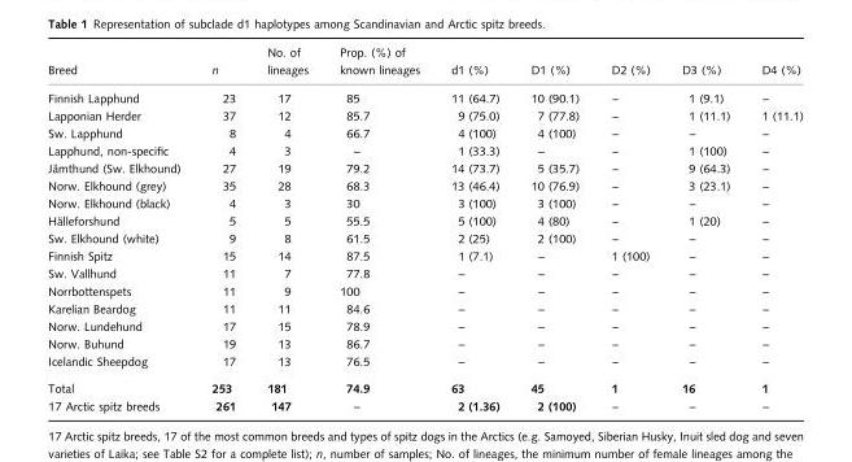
<table><thead><tr><td>Breed</td><td>n</td><td>No. of lineages</td><td>Prop. (%) of known lineages</td><td>d1 (%)</td><td>D1 (%)</td><td>D2 (%)</td><td>D3 (%)</td><td>D4 (%)</td></tr></thead><tbody><tr><td>Finnish Lapphund</td><td>23</td><td>17</td><td>85</td><td>11 (64.7)</td><td>10 (90.1)</td><td>–</td><td>1 (9.1)</td><td>–</td></tr><tr><td>Lapponian Herder</td><td>37</td><td>12</td><td>85.7</td><td>9 (75.0)</td><td>7 (77.8)</td><td>–</td><td>1 (11.1)</td><td>1 (11.1)</td></tr><tr><td>Sw. Lapphund</td><td>8</td><td>4</td><td>66.7</td><td>4 (100)</td><td>4 (100)</td><td>–</td><td>–</td><td>–</td></tr><tr><td>Lapphund, non-specific</td><td>4</td><td>3</td><td>–</td><td>1 (33.3)</td><td>–</td><td>–</td><td>1 (100)</td><td>–</td></tr><tr><td>Ja¨mthund (Sw. Elkhound)</td><td>27</td><td>19</td><td>79.2</td><td>14 (73.7)</td><td>5 (35.7)</td><td>–</td><td>9 (64.3)</td><td>–</td></tr><tr><td>Norw. Elkhound (grey)</td><td>35</td><td>28</td><td>68.3</td><td>13 (46.4)</td><td>10 (76.9)</td><td>–</td><td>3 (23.1)</td><td>–</td></tr><tr><td>Norw. Elkhound (black)</td><td>4</td><td>3</td><td>30</td><td>3 (100)</td><td>3 (100)</td><td>–</td><td>–</td><td>–</td></tr><tr><td>Ha¨lleforshund</td><td>5</td><td>5</td><td>55.5</td><td>5 (100)</td><td>4 (80)</td><td>–</td><td>1 (20)</td><td>–</td></tr><tr><td>Sw. Elkhound (white)</td><td>9</td><td>8</td><td>61.5</td><td>2 (25)</td><td>2 (100)</td><td>–</td><td>–</td><td>–</td></tr><tr><td>Finnish Spitz</td><td>15</td><td>14</td><td>87.5</td><td>1 (7.1)</td><td>–</td><td>1 (100)</td><td>–</td><td>–</td></tr><tr><td>Sw. Vallhund</td><td>11</td><td>7</td><td>77.8</td><td>–</td><td>–</td><td>–</td><td>–</td><td>–</td></tr><tr><td>Norrbottenspets</td><td>11</td><td>9</td><td>100</td><td>–</td><td>–</td><td>–</td><td>–</td><td>–</td></tr><tr><td>Karelian Beardog</td><td>11</td><td>11</td><td>84.6</td><td>–</td><td>–</td><td>–</td><td>–</td><td>–</td></tr><tr><td>Norw. Lundehund</td><td>17</td><td>15</td><td>78.9</td><td>–</td><td>–</td><td>–</td><td>–</td><td>–</td></tr><tr><td>Norw. Buhund</td><td>19</td><td>13</td><td>86.7</td><td>–</td><td>–</td><td>–</td><td>–</td><td>–</td></tr><tr><td>Icelandic Sheepdog</td><td>17</td><td>13</td><td>76.5</td><td>–</td><td>–</td><td>–</td><td>–</td><td>–</td></tr><tr><td>Total</td><td>253</td><td>181</td><td>74.9</td><td>63</td><td>45</td><td>1</td><td>16</td><td>1</td></tr><tr><td>17 Arctic spitz breeds</td><td>261</td><td>147</td><td>–</td><td>2 (1.36)</td><td>2 (100)</td><td>–</td><td>–</td><td>–</td></tr></tbody></table>